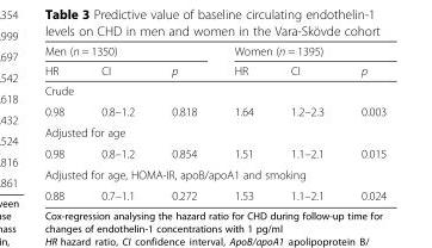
<table><thead><tr><td colspan="3">Men (n = 1350)</td><td colspan="3">Women (n = 1395)</td></tr><tr><td>HR</td><td>CI</td><td>p</td><td>HR</td><td>CI</td><td>p</td></tr></thead><tbody><tr><td colspan="6">Crude</td></tr><tr><td>0.98</td><td>0.8–1.2</td><td>0.818</td><td>1.64</td><td>1.2–2.3</td><td>0.003</td></tr><tr><td colspan="6">Adjusted for age</td></tr><tr><td>0.98</td><td>0.8–1.2</td><td>0.854</td><td>1.51</td><td>1.1–2.1</td><td>0.015</td></tr><tr><td colspan="6">Adjusted for age, HOMA-IR, apoB/apoA1 and smoking</td></tr><tr><td>0.88</td><td>0.7–1.1</td><td>0.272</td><td>1.53</td><td>1.1–2.1</td><td>0.024</td></tr></tbody></table>